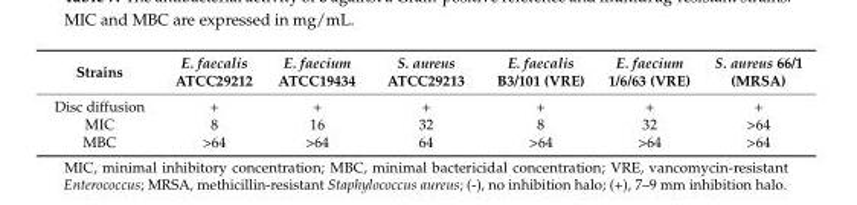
<table><thead><tr><td>Strains</td><td>E. faecalis ATCC29212</td><td>E. faecium ATCC19434</td><td>S. aureus ATCC29213</td><td>E. faecalis B3/101 (VRE)</td><td>E. faecium 1/6/63 (VRE)</td><td>S. aureus 66/1 (MRSA)</td></tr></thead><tbody><tr><td>Disc diffusion</td><td>+</td><td>+</td><td>+</td><td>+</td><td>+</td><td>+</td></tr><tr><td>MIC</td><td>8</td><td>16</td><td>32</td><td>8</td><td>32</td><td>&gt;64</td></tr><tr><td>MBC</td><td>&gt;64</td><td>&gt;64</td><td>64</td><td>&gt;64</td><td>&gt;64</td><td>&gt;64</td></tr></tbody></table>